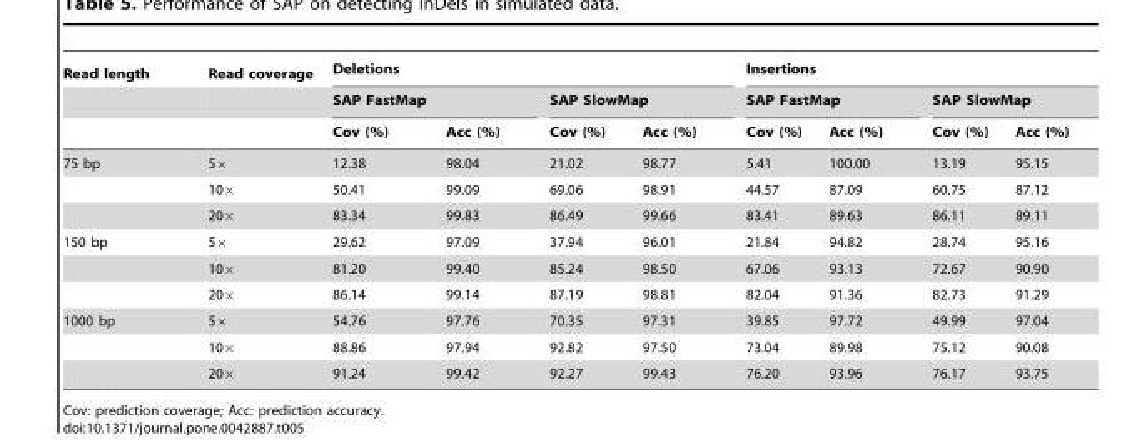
<table><thead><tr><td rowspan="3">Read length</td><td rowspan="3">Read coverage</td><td colspan="4">Deletions</td><td colspan="4">Insertions</td></tr><tr><td colspan="2">SAP FastMap</td><td colspan="2">SAP SlowMap</td><td colspan="2">SAP FastMap</td><td colspan="2">SAP SlowMap</td></tr><tr><td>Cov (%)</td><td>Acc (%)</td><td>Cov (%)</td><td>Acc (%)</td><td>Cov (%)</td><td>Acc (%)</td><td>Cov (%)</td><td>Acc (%)</td></tr></thead><tbody><tr><td rowspan="3">75 bp</td><td>5×</td><td>12.38</td><td>98.04</td><td>21.02</td><td>98.77</td><td>5.41</td><td>100.00</td><td>13.19</td><td>95.15</td></tr><tr><td>10×</td><td>50.41</td><td>99.09</td><td>69.06</td><td>98.91</td><td>44.57</td><td>87.09</td><td>60.75</td><td>87.12</td></tr><tr><td>20×</td><td>83.34</td><td>99.83</td><td>86.49</td><td>99.66</td><td>83.41</td><td>89.63</td><td>86.11</td><td>89.11</td></tr><tr><td rowspan="3">150 bp</td><td>5×</td><td>29.62</td><td>97.09</td><td>37.94</td><td>96.01</td><td>21.84</td><td>94.82</td><td>28.74</td><td>95.16</td></tr><tr><td>10×</td><td>81.20</td><td>99.40</td><td>85.24</td><td>98.50</td><td>67.06</td><td>93.13</td><td>72.67</td><td>90.90</td></tr><tr><td>20×</td><td>86.14</td><td>99.14</td><td>87.19</td><td>98.81</td><td>82.04</td><td>91.36</td><td>82.73</td><td>91.29</td></tr><tr><td rowspan="3">1000 bp</td><td>5×</td><td>54.76</td><td>97.76</td><td>70.35</td><td>97.31</td><td>39.85</td><td>97.72</td><td>49.99</td><td>97.04</td></tr><tr><td>10×</td><td>88.86</td><td>97.94</td><td>92.82</td><td>97.50</td><td>73.04</td><td>89.98</td><td>75.12</td><td>90.08</td></tr><tr><td>20×</td><td>91.24</td><td>99.42</td><td>92.27</td><td>99.43</td><td>76.20</td><td>93.96</td><td>76.17</td><td>93.75</td></tr></tbody></table>